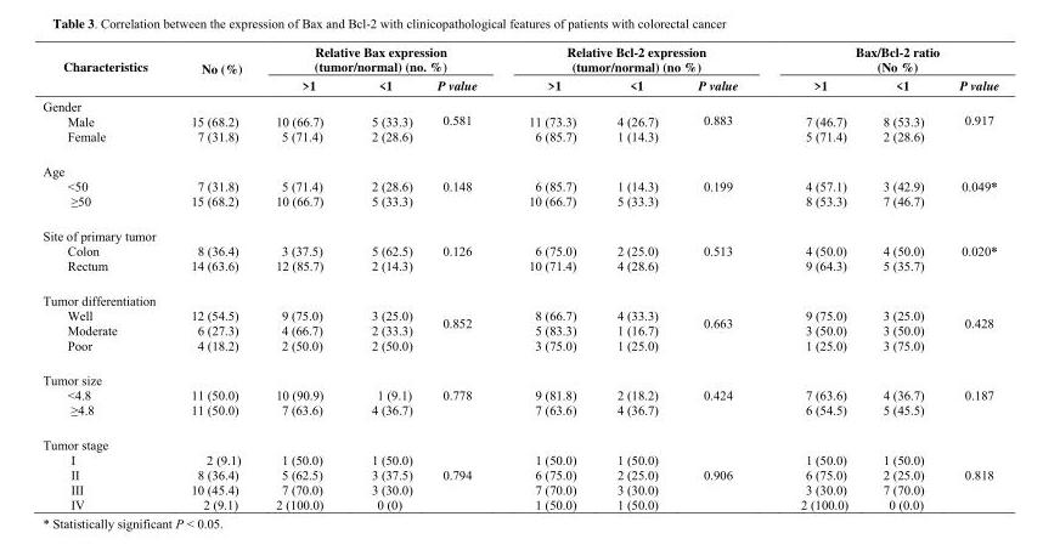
<table><thead><tr><td rowspan="2">Characteristics</td><td rowspan="2">No (%)</td><td colspan="3">Relative Bax expression (tumor/normal) (no. %)</td><td colspan="3">Relative Bcl-2 expression (tumor/normal) (no %)</td><td colspan="3">Bax/Bcl-2 ratio (No %)</td></tr><tr><td>&gt;1</td><td>&lt;1</td><td>P value</td><td>&gt;1</td><td>&lt;1</td><td>P value</td><td>&gt;1</td><td>&lt;1</td><td>P value</td></tr></thead><tbody><tr><td>Gender Male Female</td><td>15 (68.2) 7 (31.8)</td><td>10 (66.7) 5 (71.4)</td><td>5 (33.3) 2 (28.6)</td><td>0.581</td><td>11 (73.3) 6 (85.7)</td><td>4 (26.7) 1 (14.3)</td><td>0.883</td><td>7 (46.7) 5 (71.4)</td><td>8 (53.3) 2 (28.6)</td><td>0.917</td></tr><tr><td>Age &lt;50 ≥50</td><td>7 (31.8) 15 (68.2)</td><td>5 (71.4) 10 (66.7)</td><td>2 (28.6) 5 (33.3)</td><td>0.148</td><td>6 (85.7) 10 (66.7)</td><td>1 (14.3) 5 (33.3)</td><td>0.199</td><td>4 (57.1) 8 (53.3)</td><td>3 (42.9) 7 (46.7)</td><td>0.049*</td></tr><tr><td>Site of primary tumor Colon Rectum</td><td>8 (36.4) 14 (63.6)</td><td>3 (37.5) 12 (85.7)</td><td>5 (62.5) 2 (14.3)</td><td>0.126</td><td>6 (75.0) 10 (71.4)</td><td>2 (25.0) 4 (28.6)</td><td>0.513</td><td>4 (50.0) 9 (64.3)</td><td>4 (50.0) 5 (35.7)</td><td>0.020*</td></tr><tr><td>Tumor differentiation Well Moderate Poor</td><td>12 (54.5) 6 (27.3) 4 (18.2)</td><td>9 (75.0) 4 (66.7) 2 (50.0)</td><td>3 (25.0) 2 (33.3) 2 (50.0)</td><td>0.852</td><td>8 (66.7) 5 (83.3) 3 (75.0)</td><td>4 (33.3) 1 (16.7) 1 (25.0)</td><td>0.663</td><td>9 (75.0) 3 (50.0) 1 (25.0)</td><td>3 (25.0) 3 (50.0) 3 (75.0)</td><td>0.428</td></tr><tr><td>Tumor size &lt;4.8 ≥4.8</td><td>11 (50.0) 11 (50.0)</td><td>10 (90.9) 7 (63.6)</td><td>1 (9.1) 4 (36.7)</td><td>0.778</td><td>9 (81.8) 7 (63.6)</td><td>2 (18.2) 4 (36.7)</td><td>0.424</td><td>7 (63.6) 6 (54.5)</td><td>4 (36.7) 5 (45.5)</td><td>0.187</td></tr><tr><td>Tumor stage I II III IV</td><td>2 (9.1) 8 (36.4) 10 (45.4) 2 (9.1)</td><td>1 (50.0) 5 (62.5) 7 (70.0) 2 (100.0)</td><td>1 (50.0) 3 (37.5) 3 (30.0) 0 (0)</td><td>0.794</td><td>1 (50.0) 6 (75.0) 7 (70.0) 1 (50.0)</td><td>1 (50.0) 2 (25.0) 3 (30.0) 1 (50.0)</td><td>0.906</td><td>1 (50.0) 6 (75.0) 3 (30.0) 2 (100.0)</td><td>1 (50.0) 2 (25.0) 7 (70.0) 0 (0.0)</td><td>0.818</td></tr></tbody></table>